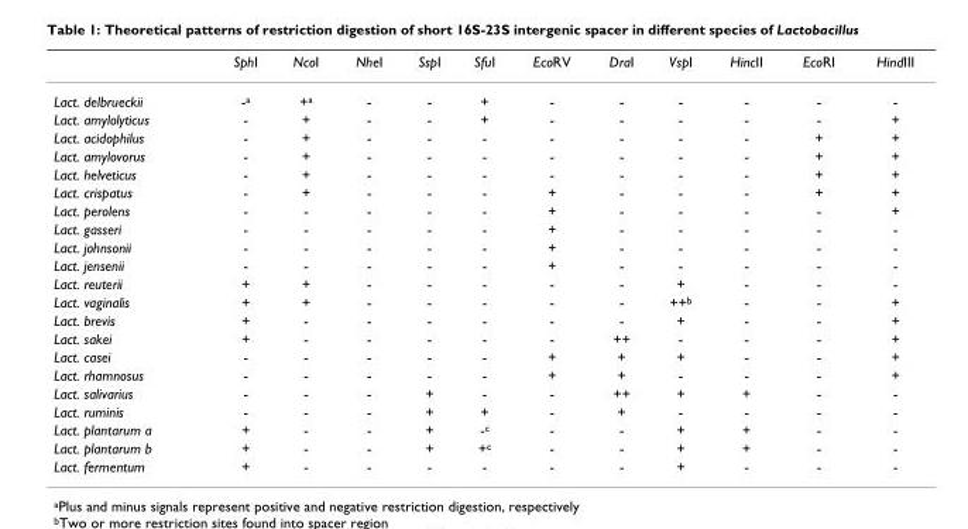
<table><thead><tr><td></td><td>SphI</td><td>NcoI</td><td>NheI</td><td>SspI</td><td>SfuI</td><td>EcoRV</td><td>DraI</td><td>VspI</td><td>HincII</td><td>EcoRI</td><td>HindIII</td></tr></thead><tbody><tr><td>Lact. delbrueckii</td><td>-a</td><td>+a</td><td>-</td><td>-</td><td>+</td><td>-</td><td>-</td><td>-</td><td>-</td><td>-</td><td>-</td></tr><tr><td>Lact. amylolyticus</td><td>-</td><td>+</td><td>-</td><td>-</td><td>+</td><td>-</td><td>-</td><td>-</td><td>-</td><td>-</td><td>+</td></tr><tr><td>Lact. acidophilus</td><td>-</td><td>+</td><td>-</td><td>-</td><td>-</td><td>-</td><td>-</td><td>-</td><td>-</td><td>+</td><td>+</td></tr><tr><td>Lact. amylovorus</td><td>-</td><td>+</td><td>-</td><td>-</td><td>-</td><td>-</td><td>-</td><td>-</td><td>-</td><td>+</td><td>+</td></tr><tr><td>Lact. helveticus</td><td>-</td><td>+</td><td>-</td><td>-</td><td>-</td><td>-</td><td>-</td><td>-</td><td>-</td><td>+</td><td>+</td></tr><tr><td>Lact. crispatus</td><td>-</td><td>+</td><td>-</td><td>-</td><td>-</td><td>+</td><td>-</td><td>-</td><td>-</td><td>+</td><td>+</td></tr><tr><td>Lact. perolens</td><td>-</td><td>-</td><td>-</td><td>-</td><td>-</td><td>+</td><td>-</td><td>-</td><td>-</td><td>-</td><td>+</td></tr><tr><td>Lact. gasseri</td><td>-</td><td>-</td><td>-</td><td>-</td><td>-</td><td>+</td><td>-</td><td>-</td><td>-</td><td>-</td><td>-</td></tr><tr><td>Lact. johnsonii</td><td>-</td><td>-</td><td>-</td><td>-</td><td>-</td><td>+</td><td>-</td><td>-</td><td>-</td><td>-</td><td>-</td></tr><tr><td>Lact. jensenii</td><td>-</td><td>-</td><td>-</td><td>-</td><td>-</td><td>+</td><td>-</td><td>-</td><td>-</td><td>-</td><td>-</td></tr><tr><td>Lact. reuterii</td><td>+</td><td>+</td><td>-</td><td>-</td><td>-</td><td>-</td><td>-</td><td>+</td><td>-</td><td>-</td><td>-</td></tr><tr><td>Lact. vaginalis</td><td>+</td><td>+</td><td>-</td><td>-</td><td>-</td><td>-</td><td>-</td><td>++b</td><td>-</td><td>-</td><td>+</td></tr><tr><td>Lact. brevis</td><td>+</td><td>-</td><td>-</td><td>-</td><td>-</td><td>-</td><td>-</td><td>+</td><td>-</td><td>-</td><td>+</td></tr><tr><td>Lact. sakei</td><td>+</td><td>-</td><td>-</td><td>-</td><td>-</td><td>-</td><td>++</td><td>-</td><td>-</td><td>-</td><td>+</td></tr><tr><td>Lact. casei</td><td>-</td><td>-</td><td>-</td><td>-</td><td>-</td><td>+</td><td>+</td><td>+</td><td>-</td><td>-</td><td>+</td></tr><tr><td>Lact. rhamnosus</td><td>-</td><td>-</td><td>-</td><td>-</td><td>-</td><td>+</td><td>+</td><td>-</td><td>-</td><td>-</td><td>+</td></tr><tr><td>Lact. salivarius</td><td>-</td><td>-</td><td>-</td><td>+</td><td>-</td><td>-</td><td>++</td><td>+</td><td>+</td><td>-</td><td>-</td></tr><tr><td>Lact. ruminis</td><td>-</td><td>-</td><td>-</td><td>+</td><td>+</td><td>-</td><td>+</td><td>-</td><td>-</td><td>-</td><td>-</td></tr><tr><td>Lact. plantarum a</td><td>+</td><td>-</td><td>-</td><td>+</td><td>-c</td><td>-</td><td>-</td><td>+</td><td>+</td><td>-</td><td>-</td></tr><tr><td>Lact. plantarum b</td><td>+</td><td>-</td><td>-</td><td>+</td><td>+c</td><td>-</td><td>-</td><td>+</td><td>+</td><td>-</td><td>-</td></tr><tr><td>Lact. fermentum</td><td>+</td><td>-</td><td>-</td><td>-</td><td>-</td><td>-</td><td>-</td><td>+</td><td>-</td><td>-</td><td>-</td></tr></tbody></table>